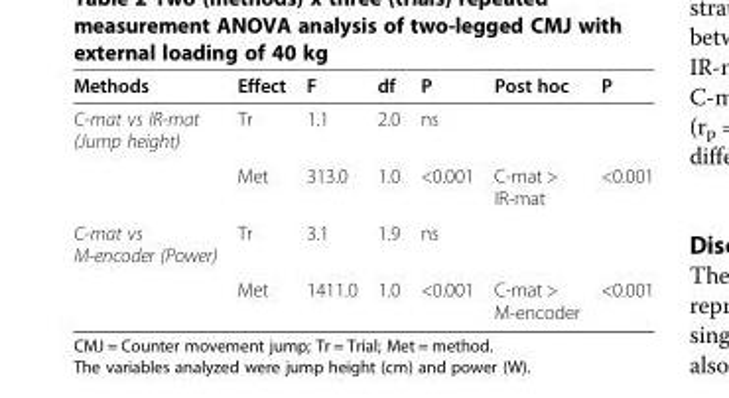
<table><thead><tr><td>Methods</td><td>Effect</td><td>F</td><td>df</td><td>P</td><td>Post hoc</td><td>P</td></tr></thead><tbody><tr><td rowspan="2">C-mat vs IR-mat (Jump height)</td><td>Tr</td><td>1.1</td><td>2.0</td><td>ns</td><td></td><td></td></tr><tr><td>Met</td><td>313.0</td><td>1.0</td><td>&lt;0.001</td><td>C-mat &gt; IR-mat</td><td>&lt;0.001</td></tr><tr><td rowspan="2">C-mat vs M-encoder (Power)</td><td>Tr</td><td>3.1</td><td>1.9</td><td>ns</td><td></td><td></td></tr><tr><td>Met</td><td>1411.0</td><td>1.0</td><td>&lt;0.001</td><td>C-mat &gt; M-encoder</td><td>&lt;0.001</td></tr></tbody></table>